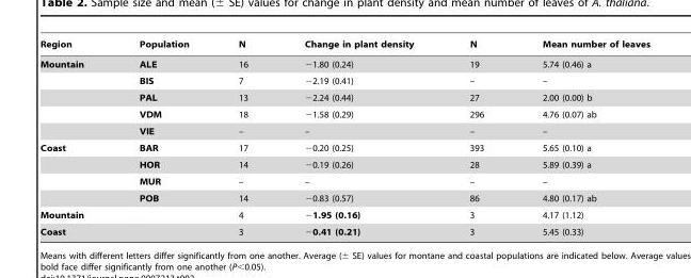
<table><thead><tr><td>Region</td><td>Population</td><td>N</td><td>Change in plant density</td><td>N</td><td>Mean number of leaves</td></tr></thead><tbody><tr><td rowspan="5">Mountain</td><td>ALE</td><td>16</td><td>−1.80 (0.24)</td><td>19</td><td>5.74 (0.46) a</td></tr><tr><td>BIS</td><td>7</td><td>−2.19 (0.41)</td><td>–</td><td>–</td></tr><tr><td>PAL</td><td>13</td><td>−2.24 (0.44)</td><td>27</td><td>2.00 (0.00) b</td></tr><tr><td>VDM</td><td>18</td><td>−1.58 (0.29)</td><td>296</td><td>4.76 (0.07) ab</td></tr><tr><td>VIE</td><td>–</td><td>–</td><td>–</td><td>–</td></tr><tr><td rowspan="4">Coast</td><td>BAR</td><td>17</td><td>−0.20 (0.25)</td><td>393</td><td>5.65 (0.10) a</td></tr><tr><td>HOR</td><td>14</td><td>−0.19 (0.26)</td><td>28</td><td>5.89 (0.39) a</td></tr><tr><td>MUR</td><td>–</td><td>–</td><td>–</td><td>–</td></tr><tr><td>POB</td><td>14</td><td>−0.83 (0.57)</td><td>86</td><td>4.80 (0.17) ab</td></tr><tr><td>Mountain</td><td></td><td>4</td><td>−1.95 (0.16)</td><td>3</td><td>4.17 (1.12)</td></tr><tr><td>Coast</td><td></td><td>3</td><td>−0.41 (0.21)</td><td>3</td><td>5.45 (0.33)</td></tr></tbody></table>